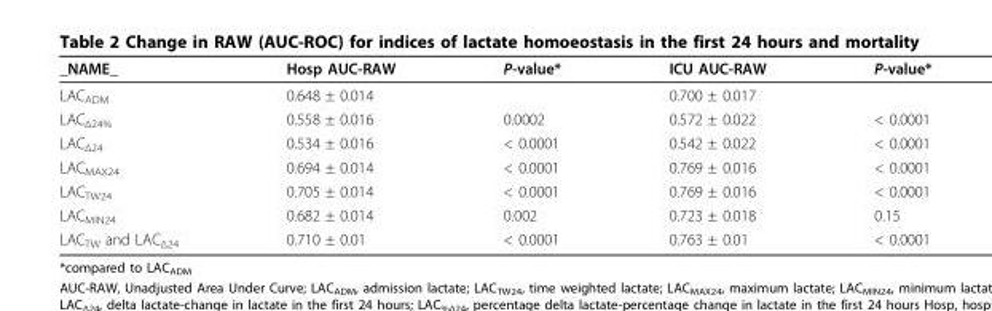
<table><thead><tr><td>_NAME_</td><td>Hosp AUC-RAW</td><td>P-value*</td><td>ICU AUC-RAW</td><td>P-value*</td></tr></thead><tbody><tr><td>LAC<sub>ADM</sub></td><td>0.648 ± 0.014</td><td></td><td>0.700 ± 0.017</td><td></td></tr><tr><td>LAC<sub>Δ24%</sub></td><td>0.558 ± 0.016</td><td>0.0002</td><td>0.572 ± 0.022</td><td>&lt; 0.0001</td></tr><tr><td>LAC<sub>Δ24</sub></td><td>0.534 ± 0.016</td><td>&lt; 0.0001</td><td>0.542 ± 0.022</td><td>&lt; 0.0001</td></tr><tr><td>LAC<sub>MAX24</sub></td><td>0.694 ± 0.014</td><td>&lt; 0.0001</td><td>0.769 ± 0.016</td><td>&lt; 0.0001</td></tr><tr><td>LAC<sub>TW24</sub></td><td>0.705 ± 0.014</td><td>&lt; 0.0001</td><td>0.769 ± 0.016</td><td>&lt; 0.0001</td></tr><tr><td>LAC<sub>MIN24</sub></td><td>0.682 ± 0.014</td><td>0.002</td><td>0.723 ± 0.018</td><td>0.15</td></tr><tr><td>LAC<sub>TW</sub> and LAC<sub>Δ24</sub></td><td>0.710 ± 0.01</td><td>&lt; 0.0001</td><td>0.763 ± 0.01</td><td>&lt; 0.0001</td></tr></tbody></table>